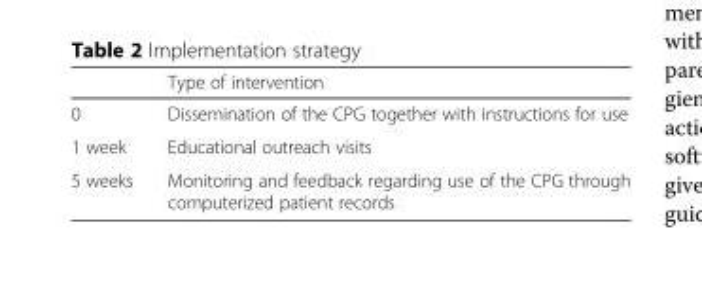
<table><thead><tr><td></td><td>Type of intervention</td></tr></thead><tbody><tr><td>0</td><td>Dissemination of the CPG together with instructions for use</td></tr><tr><td>1 week</td><td>Educational outreach visits</td></tr><tr><td>5 weeks</td><td>Monitoring and feedback regarding use of the CPG through computerized patient records</td></tr></tbody></table>